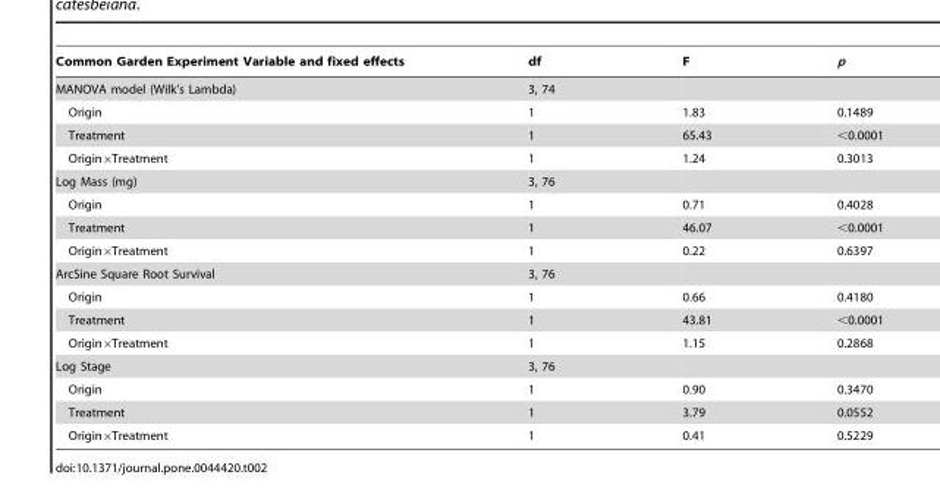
<table><thead><tr><td>Common Garden Experiment Variable and fixed effects</td><td>df</td><td>F</td><td>p</td></tr></thead><tbody><tr><td>MANOVA model (Wilk’s Lambda)</td><td>3, 74</td><td></td><td></td></tr><tr><td>Origin</td><td>1</td><td>1.83</td><td>0.1489</td></tr><tr><td>Treatment</td><td>1</td><td>65.43</td><td>&lt;0.0001</td></tr><tr><td>Origin×Treatment</td><td>1</td><td>1.24</td><td>0.3013</td></tr><tr><td>Log Mass (mg)</td><td>3, 76</td><td></td><td></td></tr><tr><td>Origin</td><td>1</td><td>0.71</td><td>0.4028</td></tr><tr><td>Treatment</td><td>1</td><td>46.07</td><td>&lt;0.0001</td></tr><tr><td>Origin×Treatment</td><td>1</td><td>0.22</td><td>0.6397</td></tr><tr><td>ArcSine Square Root Survival</td><td>3, 76</td><td></td><td></td></tr><tr><td>Origin</td><td>1</td><td>0.66</td><td>0.4180</td></tr><tr><td>Treatment</td><td>1</td><td>43.81</td><td>&lt;0.0001</td></tr><tr><td>Origin×Treatment</td><td>1</td><td>1.15</td><td>0.2868</td></tr><tr><td>Log Stage</td><td>3, 76</td><td></td><td></td></tr><tr><td>Origin</td><td>1</td><td>0.90</td><td>0.3470</td></tr><tr><td>Treatment</td><td>1</td><td>3.79</td><td>0.0552</td></tr><tr><td>Origin×Treatment</td><td>1</td><td>0.41</td><td>0.5229</td></tr></tbody></table>